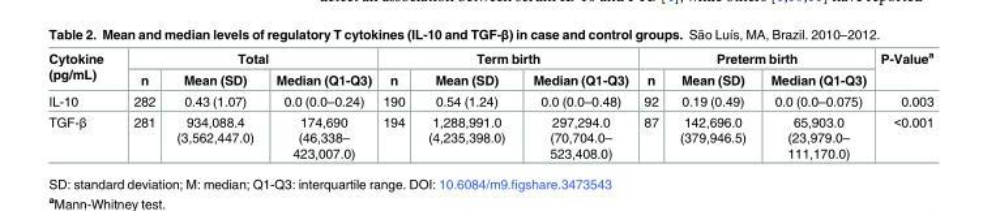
<table><thead><tr><td rowspan="2">Cytokine (pg/mL)</td><td colspan="3">Total</td><td colspan="3">Term birth</td><td colspan="3">Preterm birth</td><td rowspan="2">P-Value<sup>a</sup></td></tr><tr><td>n</td><td>Mean (SD)</td><td>Median (Q1-Q3)</td><td>n</td><td>Mean (SD)</td><td>Median (Q1-Q3)</td><td>n</td><td>Mean (SD)</td><td>Median (Q1-Q3)</td></tr></thead><tbody><tr><td>IL-10</td><td>282</td><td>0.43 (1.07)</td><td>0.0 (0.0–0.24)</td><td>190</td><td>0.54 (1.24)</td><td>0.0 (0.0–0.48)</td><td>92</td><td>0.19 (0.49)</td><td>0.0 (0.0–0.075)</td><td>0.003</td></tr><tr><td>TGF-β</td><td>281</td><td>934,088.4 (3,562,447.0)</td><td>174,690 (46,338– 423,007.0)</td><td>194</td><td>1,288,991.0 (4,235,398.0)</td><td>297,294.0 (70,704.0– 523,408.0)</td><td>87</td><td>142,696.0 (379,946.5)</td><td>65,903.0 (23,979.0– 111,170.0)</td><td>&lt;0.001</td></tr></tbody></table>